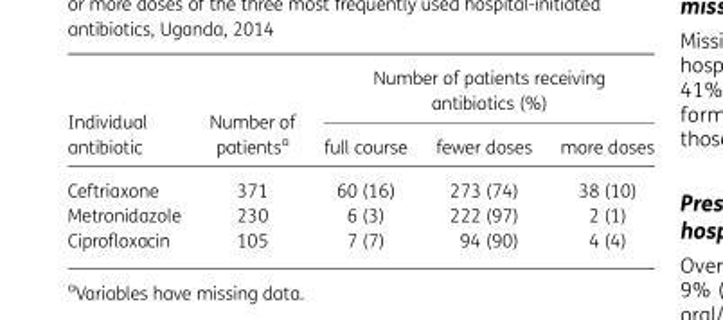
<table><thead><tr><td rowspan="2">Individual antibiotic</td><td rowspan="2">Number of patients<sup>a</sup></td><td colspan="3">Number of patients receiving antibiotics (%)</td></tr><tr><td>full course</td><td>fewer doses</td><td>more doses</td></tr></thead><tbody><tr><td>Ceftriaxone</td><td>371</td><td>60 (16)</td><td>273 (74)</td><td>38 (10)</td></tr><tr><td>Metronidazole</td><td>230</td><td>6 (3)</td><td>222 (97)</td><td>2 (1)</td></tr><tr><td>Ciprofloxacin</td><td>105</td><td>7 (7)</td><td>94 (90)</td><td>4 (4)</td></tr></tbody></table>